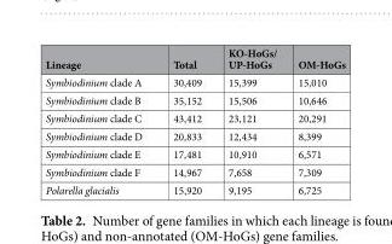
<table><thead><tr><td>Lineage</td><td>Total</td><td>KO-HoGs/ UP-HoGs</td><td>OM-HoGs</td></tr></thead><tbody><tr><td>Symbiodinium clade A</td><td>30,409</td><td>15,399</td><td>15,010</td></tr><tr><td>Symbiodinium clade B</td><td>35,152</td><td>15,506</td><td>10,646</td></tr><tr><td>Symbiodinium clade C</td><td>43,412</td><td>23,121</td><td>20,291</td></tr><tr><td>Symbiodinium clade D</td><td>20,833</td><td>12,434</td><td>8,399</td></tr><tr><td>Symbiodinium clade E</td><td>17,481</td><td>10,910</td><td>6,571</td></tr><tr><td>Symbiodinium clade F</td><td>14,967</td><td>7,658</td><td>7,309</td></tr><tr><td>Polarella glacialis</td><td>15,920</td><td>9,195</td><td>6,725</td></tr></tbody></table>